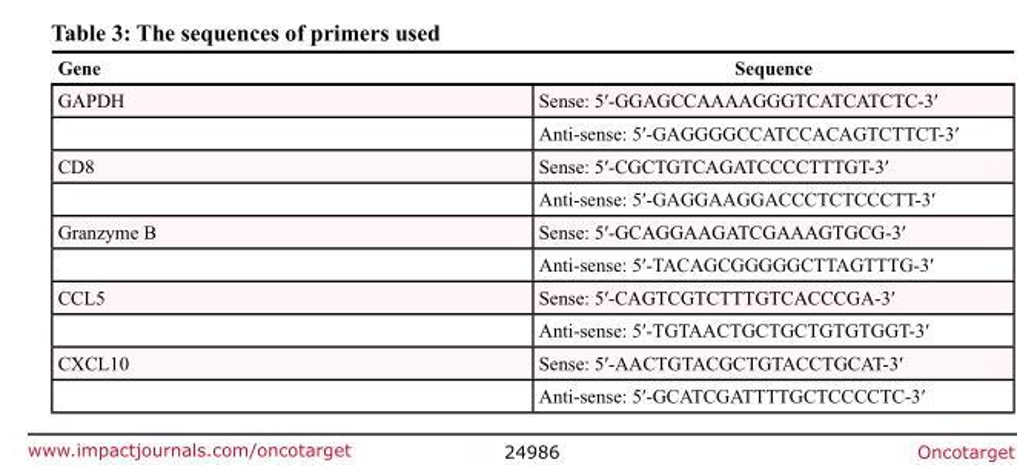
<table><thead><tr><td>Gene</td><td>Sequence</td></tr></thead><tbody><tr><td rowspan="2">GAPDH</td><td>Sense: 5′-GGAGCCAAAAGGGTCATCATCTC-3′</td></tr><tr><td>Anti-sense: 5′-GAGGGGCCATCCACAGTCTTCT-3′</td></tr><tr><td rowspan="2">CD8</td><td>Sense: 5′-CGCTGTCAGATCCCCTTTGT-3′</td></tr><tr><td>Anti-sense: 5′-GAGGAAGGACCCTCTCCCTT-3′</td></tr><tr><td rowspan="2">Granzyme B</td><td>Sense: 5′-GCAGGAAGATCGAAAGTGCG-3′</td></tr><tr><td>Anti-sense: 5′-TACAGCGGGGGCTTAGTTTG-3′</td></tr><tr><td rowspan="2">CCL5</td><td>Sense: 5′-CAGTCGTCTTTGTCACCCGA-3′</td></tr><tr><td>Anti-sense: 5′-TGTAACTGCTGCTGTGTGGT-3′</td></tr><tr><td rowspan="2">CXCL10</td><td>Sense: 5′-AACTGTACGCTGTACCTGCAT-3′</td></tr><tr><td>Anti-sense: 5′-GCATCGATTTTGCTCCCCTC-3′</td></tr></tbody></table>